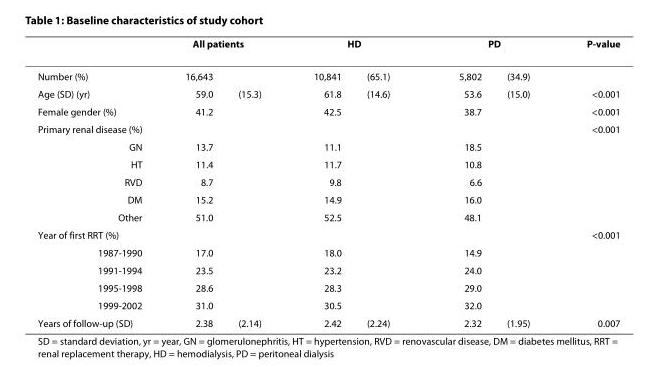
<table><thead><tr><td rowspan="2">Number (%)</td><td colspan="2">All patients</td><td colspan="2">HD</td><td colspan="2">PD</td><td rowspan="2">P-value</td></tr><tr><td>16,643</td><td></td><td>10,841</td><td>(65.1)</td><td>5,802</td><td>(34.9)</td></tr></thead><tbody><tr><td>Age (SD) (yr)</td><td>59.0</td><td>(15.3)</td><td>61.8</td><td>(14.6)</td><td>53.6</td><td>(15.0)</td><td>&lt;0.001</td></tr><tr><td>Female gender (%)</td><td>41.2</td><td></td><td>42.5</td><td></td><td>38.7</td><td></td><td>&lt;0.001</td></tr><tr><td>Primary renal disease (%)</td><td></td><td></td><td></td><td></td><td></td><td></td><td>&lt;0.001</td></tr><tr><td>GN</td><td>13.7</td><td></td><td>11.1</td><td></td><td>18.5</td><td></td><td></td></tr><tr><td>HT</td><td>11.4</td><td></td><td>11.7</td><td></td><td>10.8</td><td></td><td></td></tr><tr><td>RVD</td><td>8.7</td><td></td><td>9.8</td><td></td><td>6.6</td><td></td><td></td></tr><tr><td>DM</td><td>15.2</td><td></td><td>14.9</td><td></td><td>16.0</td><td></td><td></td></tr><tr><td>Other</td><td>51.0</td><td></td><td>52.5</td><td></td><td>48.1</td><td></td><td></td></tr><tr><td>Year of first RRT (%)</td><td></td><td></td><td></td><td></td><td></td><td></td><td>&lt;0.001</td></tr><tr><td>1987-1990</td><td>17.0</td><td></td><td>18.0</td><td></td><td>14.9</td><td></td><td></td></tr><tr><td>1991-1994</td><td>23.5</td><td></td><td>23.2</td><td></td><td>24.0</td><td></td><td></td></tr><tr><td>1995-1998</td><td>28.6</td><td></td><td>28.3</td><td></td><td>29.0</td><td></td><td></td></tr><tr><td>1999-2002</td><td>31.0</td><td></td><td>30.5</td><td></td><td>32.0</td><td></td><td></td></tr><tr><td>Years of follow-up (SD)</td><td>2.38</td><td>(2.14)</td><td>2.42</td><td>(2.24)</td><td>2.32</td><td>(1.95)</td><td>0.007</td></tr></tbody></table>